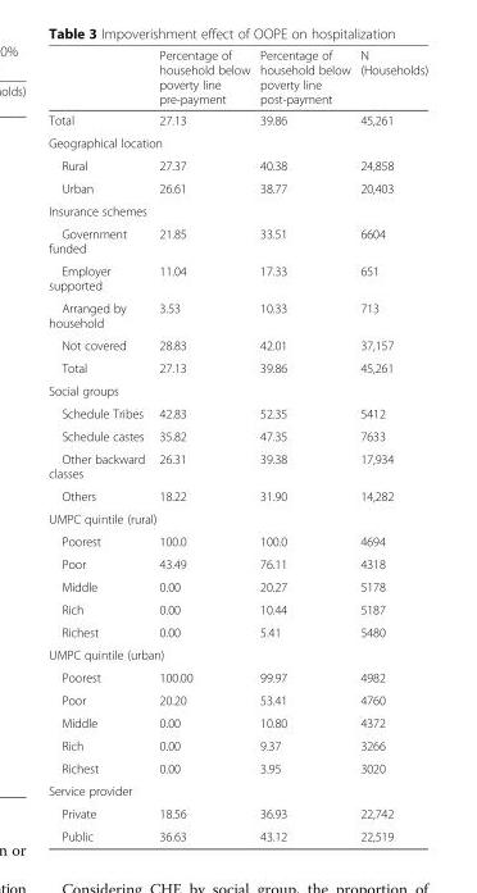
<table><thead><tr><td></td><td>Percentage of household below poverty line pre-payment</td><td>Percentage of household below poverty line post-payment</td><td>N (Households)</td></tr></thead><tbody><tr><td>Total</td><td>27.13</td><td>39.86</td><td>45,261</td></tr><tr><td colspan="4">Geographical location</td></tr><tr><td>Rural</td><td>27.37</td><td>40.38</td><td>24,858</td></tr><tr><td>Urban</td><td>26.61</td><td>38.77</td><td>20,403</td></tr><tr><td colspan="4">Insurance schemes</td></tr><tr><td>Government funded</td><td>21.85</td><td>33.51</td><td>6604</td></tr><tr><td>Employer supported</td><td>11.04</td><td>17.33</td><td>651</td></tr><tr><td>Arranged by household</td><td>3.53</td><td>10.33</td><td>713</td></tr><tr><td>Not covered</td><td>28.83</td><td>42.01</td><td>37,157</td></tr><tr><td>Total</td><td>27.13</td><td>39.86</td><td>45,261</td></tr><tr><td colspan="4">Social groups</td></tr><tr><td>Schedule Tribes</td><td>42.83</td><td>52.35</td><td>5412</td></tr><tr><td>Schedule castes</td><td>35.82</td><td>47.35</td><td>7633</td></tr><tr><td>Other backward classes</td><td>26.31</td><td>39.38</td><td>17,934</td></tr><tr><td>Others</td><td>18.22</td><td>31.90</td><td>14,282</td></tr><tr><td colspan="4">UMPC quintile (rural)</td></tr><tr><td>Poorest</td><td>100.0</td><td>100.0</td><td>4694</td></tr><tr><td>Poor</td><td>43.49</td><td>76.11</td><td>4318</td></tr><tr><td>Middle</td><td>0.00</td><td>20.27</td><td>5178</td></tr><tr><td>Rich</td><td>0.00</td><td>10.44</td><td>5187</td></tr><tr><td>Richest</td><td>0.00</td><td>5.41</td><td>5480</td></tr><tr><td colspan="4">UMPC quintile (urban)</td></tr><tr><td>Poorest</td><td>100.00</td><td>99.97</td><td>4982</td></tr><tr><td>Poor</td><td>20.20</td><td>53.41</td><td>4760</td></tr><tr><td>Middle</td><td>0.00</td><td>10.80</td><td>4372</td></tr><tr><td>Rich</td><td>0.00</td><td>9.37</td><td>3266</td></tr><tr><td>Richest</td><td>0.00</td><td>3.95</td><td>3020</td></tr><tr><td colspan="4">Service provider</td></tr><tr><td>Private</td><td>18.56</td><td>36.93</td><td>22,742</td></tr><tr><td>Public</td><td>36.63</td><td>43.12</td><td>22,519</td></tr></tbody></table>